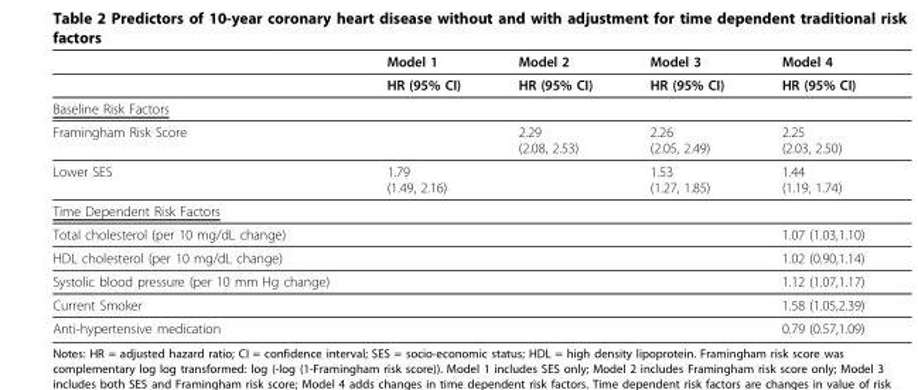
<table><thead><tr><td></td><td>Model 1</td><td>Model 2</td><td>Model 3</td><td>Model 4</td></tr></thead><tbody><tr><td></td><td>HR (95% CI)</td><td>HR (95% CI)</td><td>HR (95% CI)</td><td>HR (95% CI)</td></tr><tr><td colspan="5">Baseline Risk Factors</td></tr><tr><td>Framingham Risk Score</td><td></td><td>2.29 (2.08, 2.53)</td><td>2.26 (2.05, 2.49)</td><td>2.25 (2.03, 2.50)</td></tr><tr><td>Lower SES</td><td>1.79 (1.49, 2.16)</td><td></td><td>1.53 (1.27, 1.85)</td><td>1.44 (1.19, 1.74)</td></tr><tr><td colspan="5">Time Dependent Risk Factors</td></tr><tr><td>Total cholesterol (per 10 mg/dL change)</td><td></td><td></td><td></td><td>1.07 (1.03,1.10)</td></tr><tr><td>HDL cholesterol (per 10 mg/dL change)</td><td></td><td></td><td></td><td>1.02 (0.90,1.14)</td></tr><tr><td>Systolic blood pressure (per 10 mm Hg change)</td><td></td><td></td><td></td><td>1.12 (1.07,1.17)</td></tr><tr><td>Current Smoker</td><td></td><td></td><td></td><td>1.58 (1.05,2.39)</td></tr><tr><td>Anti-hypertensive medication</td><td></td><td></td><td></td><td>0.79 (0.57,1.09)</td></tr></tbody></table>